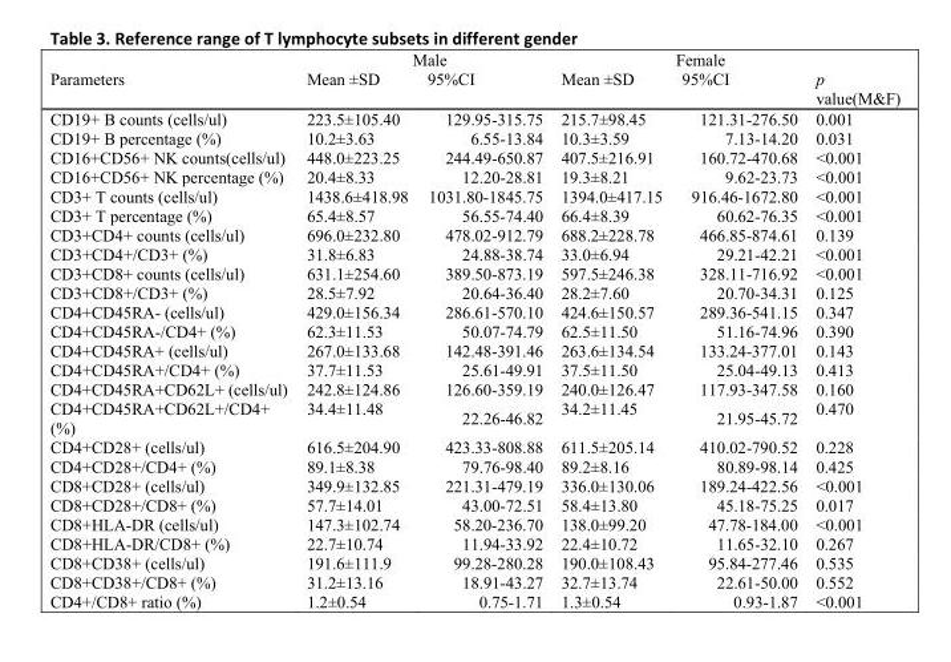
<table><thead><tr><td rowspan="2">Parameters</td><td colspan="2">Male</td><td colspan="2">Female</td><td rowspan="2">p value(M&amp;F)</td></tr><tr><td>Mean ±SD</td><td>95%CI</td><td>Mean ±SD</td><td>95%CI</td></tr></thead><tbody><tr><td>CD19+ B counts (cells/ul)</td><td>223.5±105.40</td><td>129.95-315.75</td><td>215.7±98.45</td><td>121.31-276.50</td><td>0.001</td></tr><tr><td>CD19+ B percentage (%)</td><td>10.2±3.63</td><td>6.55-13.84</td><td>10.3±3.59</td><td>7.13-14.20</td><td>0.031</td></tr><tr><td>CD16+CD56+ NK counts(cells/ul)</td><td>448.0±223.25</td><td>244.49-650.87</td><td>407.5±216.91</td><td>160.72-470.68</td><td>&lt;0.001</td></tr><tr><td>CD16+CD56+ NK percentage (%)</td><td>20.4±8.33</td><td>12.20-28.81</td><td>19.3±8.21</td><td>9.62-23.73</td><td>&lt;0.001</td></tr><tr><td>CD3+ T counts (cells/ul)</td><td>1438.6±418.98</td><td>1031.80-1845.75</td><td>1394.0±417.15</td><td>916.46-1672.80</td><td>&lt;0.001</td></tr><tr><td>CD3+ T percentage (%)</td><td>65.4±8.57</td><td>56.55-74.40</td><td>66.4±8.39</td><td>60.62-76.35</td><td>&lt;0.001</td></tr><tr><td>CD3+CD4+ counts (cells/ul)</td><td>696.0±232.80</td><td>478.02-912.79</td><td>688.2±228.78</td><td>466.85-874.61</td><td>0.139</td></tr><tr><td>CD3+CD4+/CD3+ (%)</td><td>31.8±6.83</td><td>24.88-38.74</td><td>33.0±6.94</td><td>29.21-42.21</td><td>&lt;0.001</td></tr><tr><td>CD3+CD8+ counts (cells/ul)</td><td>631.1±254.60</td><td>389.50-873.19</td><td>597.5±246.38</td><td>328.11-716.92</td><td>&lt;0.001</td></tr><tr><td>CD3+CD8+/CD3+ (%)</td><td>28.5±7.92</td><td>20.64-36.40</td><td>28.2±7.60</td><td>20.70-34.31</td><td>0.125</td></tr><tr><td>CD4+CD45RA- (cells/ul)</td><td>429.0±156.34</td><td>286.61-570.10</td><td>424.6±150.57</td><td>289.36-541.15</td><td>0.347</td></tr><tr><td>CD4+CD45RA-/CD4+ (%)</td><td>62.3±11.53</td><td>50.07-74.79</td><td>62.5±11.50</td><td>51.16-74.96</td><td>0.390</td></tr><tr><td>CD4+CD45RA+ (cells/ul)</td><td>267.0±133.68</td><td>142.48-391.46</td><td>263.6±134.54</td><td>133.24-377.01</td><td>0.143</td></tr><tr><td>CD4+CD45RA+/CD4+ (%)</td><td>37.7±11.53</td><td>25.61-49.91</td><td>37.5±11.50</td><td>25.04-49.13</td><td>0.413</td></tr><tr><td>CD4+CD45RA+CD62L+ (cells/ul)</td><td>242.8±124.86</td><td>126.60-359.19</td><td>240.0±126.47</td><td>117.93-347.58</td><td>0.160</td></tr><tr><td>CD4+CD45RA+CD62L+/CD4+ (%)</td><td>34.4±11.48</td><td>22.26-46.82</td><td>34.2±11.45</td><td>21.95-45.72</td><td>0.470</td></tr><tr><td>CD4+CD28+ (cells/ul)</td><td>616.5±204.90</td><td>423.33-808.88</td><td>611.5±205.14</td><td>410.02-790.52</td><td>0.228</td></tr><tr><td>CD4+CD28+/CD4+ (%)</td><td>89.1±8.38</td><td>79.76-98.40</td><td>89.2±8.16</td><td>80.89-98.14</td><td>0.425</td></tr><tr><td>CD8+CD28+ (cells/ul)</td><td>349.9±132.85</td><td>221.31-479.19</td><td>336.0±130.06</td><td>189.24-422.56</td><td>&lt;0.001</td></tr><tr><td>CD8+CD28+/CD8+ (%)</td><td>57.7±14.01</td><td>43.00-72.51</td><td>58.4±13.80</td><td>45.18-75.25</td><td>0.017</td></tr><tr><td>CD8+HLA-DR (cells/ul)</td><td>147.3±102.74</td><td>58.20-236.70</td><td>138.0±99.20</td><td>47.78-184.00</td><td>&lt;0.001</td></tr><tr><td>CD8+HLA-DR/CD8+ (%)</td><td>22.7±10.74</td><td>11.94-33.92</td><td>22.4±10.72</td><td>11.65-32.10</td><td>0.267</td></tr><tr><td>CD8+CD38+ (cells/ul)</td><td>191.6±111.9</td><td>99.28-280.28</td><td>190.0±108.43</td><td>95.84-277.46</td><td>0.535</td></tr><tr><td>CD8+CD38+/CD8+ (%)</td><td>31.2±13.16</td><td>18.91-43.27</td><td>32.7±13.74</td><td>22.61-50.00</td><td>0.552</td></tr><tr><td>CD4+/CD8+ ratio (%)</td><td>1.2±0.54</td><td>0.75-1.71</td><td>1.3±0.54</td><td>0.93-1.87</td><td>&lt;0.001</td></tr></tbody></table>